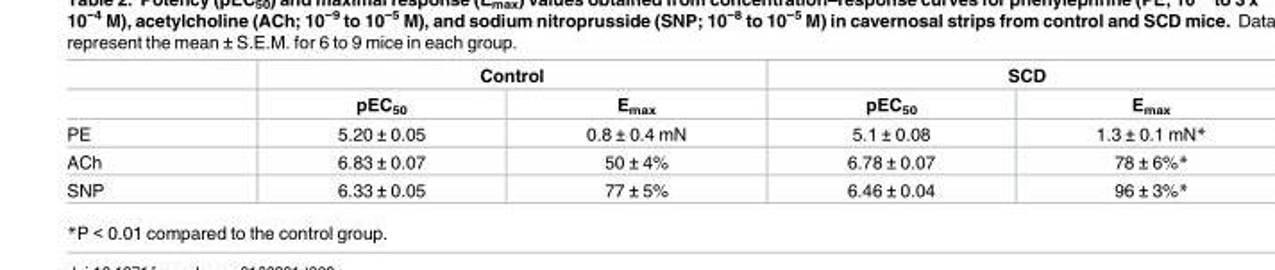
<table><thead><tr><td rowspan="2"></td><td colspan="2">Control</td><td colspan="2">SCD</td></tr><tr><td>pEC<sub>50</sub></td><td>E<sub>max</sub></td><td>pEC<sub>50</sub></td><td>E<sub>max</sub></td></tr></thead><tbody><tr><td>PE</td><td>5.20 ± 0.05</td><td>0.8 ± 0.4 mN</td><td>5.1 ± 0.08</td><td>1.3 ± 0.1 mN*</td></tr><tr><td>ACh</td><td>6.83 ± 0.07</td><td>50 ± 4%</td><td>6.78 ± 0.07</td><td>78 ± 6%*</td></tr><tr><td>SNP</td><td>6.33 ± 0.05</td><td>77 ± 5%</td><td>6.46 ± 0.04</td><td>96 ± 3%*</td></tr></tbody></table>